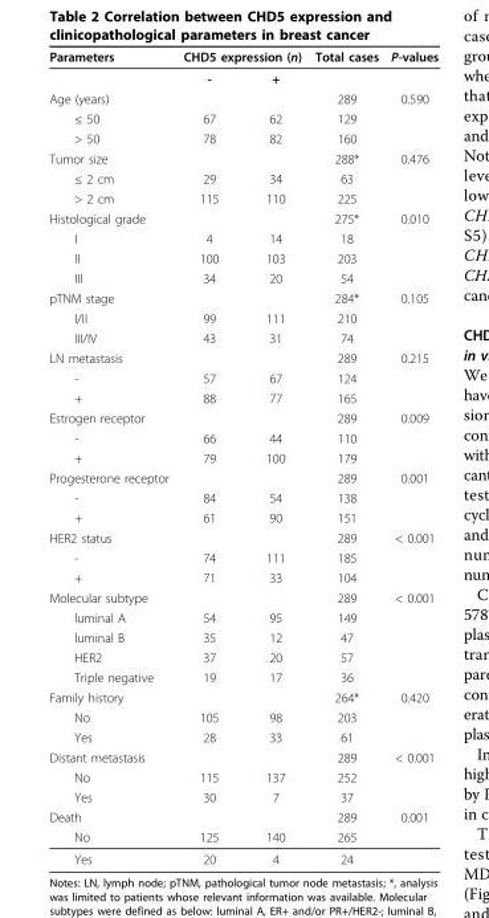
<table><thead><tr><td rowspan="2">Parameters</td><td colspan="2">CHD5 expression (n)</td><td rowspan="2">Total cases</td><td rowspan="2">P-values</td></tr><tr><td>-</td><td>+</td></tr></thead><tbody><tr><td>Age (years)</td><td></td><td></td><td>289</td><td>0.590</td></tr><tr><td>≤ 50</td><td>67</td><td>62</td><td>129</td><td></td></tr><tr><td>&gt; 50</td><td>78</td><td>82</td><td>160</td><td></td></tr><tr><td>Tumor size</td><td></td><td></td><td>288*</td><td>0.476</td></tr><tr><td>≤ 2 cm</td><td>29</td><td>34</td><td>63</td><td></td></tr><tr><td>&gt; 2 cm</td><td>115</td><td>110</td><td>225</td><td></td></tr><tr><td>Histological grade</td><td></td><td></td><td>275*</td><td>0.010</td></tr><tr><td>I</td><td>4</td><td>14</td><td>18</td><td></td></tr><tr><td>II</td><td>100</td><td>103</td><td>203</td><td></td></tr><tr><td>III</td><td>34</td><td>20</td><td>54</td><td></td></tr><tr><td>pTNM stage</td><td></td><td></td><td>284*</td><td>0.105</td></tr><tr><td>I/II</td><td>99</td><td>111</td><td>210</td><td></td></tr><tr><td>III/IV</td><td>43</td><td>31</td><td>74</td><td></td></tr><tr><td>LN metastasis</td><td></td><td></td><td>289</td><td>0.215</td></tr><tr><td>-</td><td>57</td><td>67</td><td>124</td><td></td></tr><tr><td>+</td><td>88</td><td>77</td><td>165</td><td></td></tr><tr><td>Estrogen receptor</td><td></td><td></td><td>289</td><td>0.009</td></tr><tr><td>-</td><td>66</td><td>44</td><td>110</td><td></td></tr><tr><td>+</td><td>79</td><td>100</td><td>179</td><td></td></tr><tr><td>Progesterone receptor</td><td></td><td></td><td>289</td><td>0.001</td></tr><tr><td>-</td><td>84</td><td>54</td><td>138</td><td></td></tr><tr><td>+</td><td>61</td><td>90</td><td>151</td><td></td></tr><tr><td>HER2 status</td><td></td><td></td><td>289</td><td>&lt; 0.001</td></tr><tr><td>-</td><td>74</td><td>111</td><td>185</td><td></td></tr><tr><td>+</td><td>71</td><td>33</td><td>104</td><td></td></tr><tr><td>Molecular subtype</td><td></td><td></td><td>289</td><td>&lt; 0.001</td></tr><tr><td>luminal A</td><td>54</td><td>95</td><td>149</td><td></td></tr><tr><td>luminal B</td><td>35</td><td>12</td><td>47</td><td></td></tr><tr><td>HER2</td><td>37</td><td>20</td><td>57</td><td></td></tr><tr><td>Triple negative</td><td>19</td><td>17</td><td>36</td><td></td></tr><tr><td>Family history</td><td></td><td></td><td>264*</td><td>0.420</td></tr><tr><td>No</td><td>105</td><td>98</td><td>203</td><td></td></tr><tr><td>Yes</td><td>28</td><td>33</td><td>61</td><td></td></tr><tr><td>Distant metastasis</td><td></td><td></td><td>289</td><td>&lt; 0.001</td></tr><tr><td>No</td><td>115</td><td>137</td><td>252</td><td></td></tr><tr><td>Yes</td><td>30</td><td>7</td><td>37</td><td></td></tr><tr><td>Death</td><td></td><td></td><td>289</td><td>0.001</td></tr><tr><td>No</td><td>125</td><td>140</td><td>265</td><td></td></tr><tr><td>Yes</td><td>20</td><td>4</td><td>24</td><td></td></tr></tbody></table>